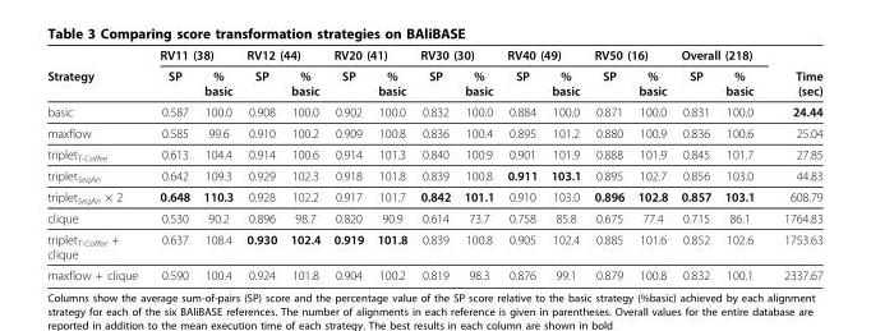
<table><thead><tr><td rowspan="2">Strategy</td><td colspan="2">RV11 (38)</td><td colspan="2">RV12 (44)</td><td colspan="2">RV20 (41)</td><td colspan="2">RV30 (30)</td><td colspan="2">RV40 (49)</td><td colspan="2">RV50 (16)</td><td colspan="2">Overall (218)</td><td rowspan="2">Time (sec)</td></tr><tr><td>SP</td><td>% basic</td><td>SP</td><td>% basic</td><td>SP</td><td>% basic</td><td>SP</td><td>% basic</td><td>SP</td><td>% basic</td><td>SP</td><td>% basic</td><td>SP</td><td>% basic</td></tr></thead><tbody><tr><td>basic</td><td>0.587</td><td>100.0</td><td>0.908</td><td>100.0</td><td>0.902</td><td>100.0</td><td>0.832</td><td>100.0</td><td>0.884</td><td>100.0</td><td>0.871</td><td>100.0</td><td>0.831</td><td>100.0</td><td>24.44</td></tr><tr><td>maxflow</td><td>0.585</td><td>99.6</td><td>0.910</td><td>100.2</td><td>0.909</td><td>100.8</td><td>0.836</td><td>100.4</td><td>0.895</td><td>101.2</td><td>0.880</td><td>100.9</td><td>0.836</td><td>100.6</td><td>25.04</td></tr><tr><td>triplet<sub>T-Coffee</sub></td><td>0.613</td><td>104.4</td><td>0.914</td><td>100.6</td><td>0.914</td><td>101.3</td><td>0.840</td><td>100.9</td><td>0.901</td><td>101.9</td><td>0.888</td><td>101.9</td><td>0.845</td><td>101.7</td><td>27.85</td></tr><tr><td>triplet<sub>SeqAn</sub></td><td>0.642</td><td>109.3</td><td>0.929</td><td>102.3</td><td>0.918</td><td>101.8</td><td>0.839</td><td>100.8</td><td>0.911</td><td>103.1</td><td>0.895</td><td>102.7</td><td>0.856</td><td>103.0</td><td>44.83</td></tr><tr><td>triplet<sub>SeqAn</sub> × 2</td><td>0.648</td><td>110.3</td><td>0.928</td><td>102.2</td><td>0.917</td><td>101.7</td><td>0.842</td><td>101.1</td><td>0.910</td><td>103.0</td><td>0.896</td><td>102.8</td><td>0.857</td><td>103.1</td><td>608.79</td></tr><tr><td>clique</td><td>0.530</td><td>90.2</td><td>0.896</td><td>98.7</td><td>0.820</td><td>90.9</td><td>0.614</td><td>73.7</td><td>0.758</td><td>85.8</td><td>0.675</td><td>77.4</td><td>0.715</td><td>86.1</td><td>1764.83</td></tr><tr><td>triplet<sub>T-Coffee</sub> + clique</td><td>0.637</td><td>108.4</td><td>0.930</td><td>102.4</td><td>0.919</td><td>101.8</td><td>0.839</td><td>100.8</td><td>0.905</td><td>102.4</td><td>0.885</td><td>101.6</td><td>0.852</td><td>102.6</td><td>1753.63</td></tr><tr><td>maxflow + clique</td><td>0.590</td><td>100.4</td><td>0.924</td><td>101.8</td><td>0.904</td><td>100.2</td><td>0.819</td><td>98.3</td><td>0.876</td><td>99.1</td><td>0.879</td><td>100.8</td><td>0.832</td><td>100.1</td><td>2337.67</td></tr></tbody></table>